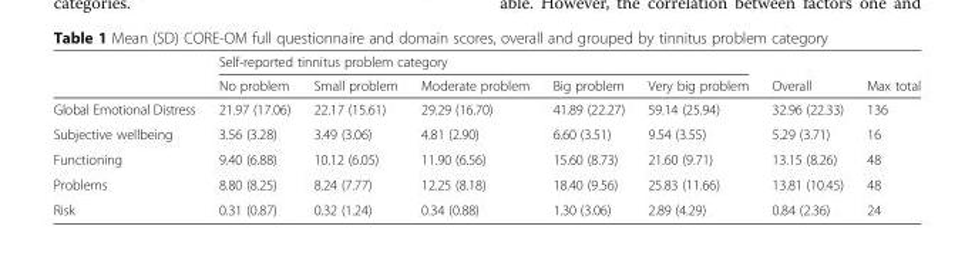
<table><thead><tr><td rowspan="2"></td><td colspan="5">Self-reported tinnitus problem category</td><td rowspan="2">Overall</td><td rowspan="2">Max total</td></tr><tr><td>No problem</td><td>Small problem</td><td>Moderate problem</td><td>Big problem</td><td>Very big problem</td></tr></thead><tbody><tr><td>Global Emotional Distress</td><td>21.97 (17.06)</td><td>22.17 (15.61)</td><td>29.29 (16.70)</td><td>41.89 (22.27)</td><td>59.14 (25.94)</td><td>32.96 (22.33)</td><td>136</td></tr><tr><td>Subjective wellbeing</td><td>3.56 (3.28)</td><td>3.49 (3.06)</td><td>4.81 (2.90)</td><td>6.60 (3.51)</td><td>9.54 (3.55)</td><td>5.29 (3.71)</td><td>16</td></tr><tr><td>Functioning</td><td>9.40 (6.88)</td><td>10.12 (6.05)</td><td>11.90 (6.56)</td><td>15.60 (8.73)</td><td>21.60 (9.71)</td><td>13.15 (8.26)</td><td>48</td></tr><tr><td>Problems</td><td>8.80 (8.25)</td><td>8.24 (7.77)</td><td>12.25 (8.18)</td><td>18.40 (9.56)</td><td>25.83 (11.66)</td><td>13.81 (10.45)</td><td>48</td></tr><tr><td>Risk</td><td>0.31 (0.87)</td><td>0.32 (1.24)</td><td>0.34 (0.88)</td><td>1.30 (3.06)</td><td>2.89 (4.29)</td><td>0.84 (2.36)</td><td>24</td></tr></tbody></table>